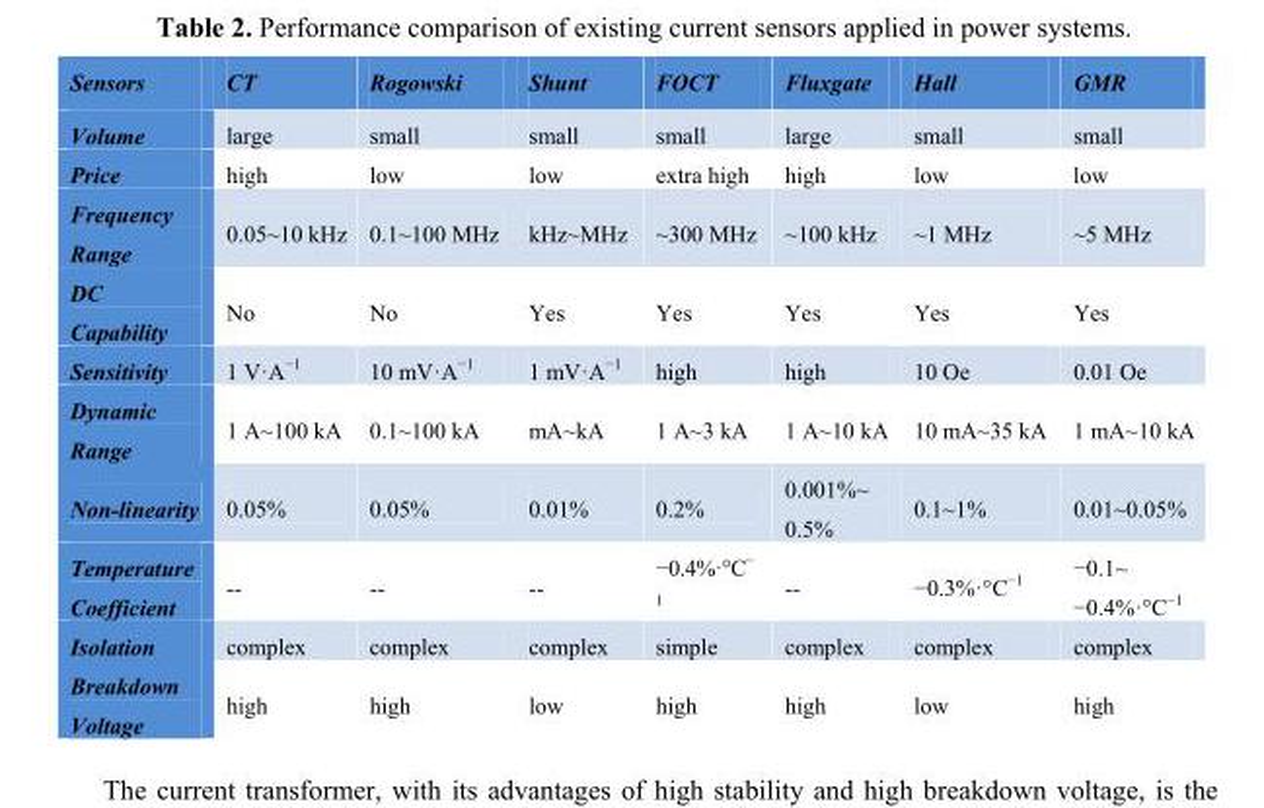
<table><thead><tr><td>Sensors</td><td>CT</td><td>Rogowski</td><td>Shunt</td><td>FOCT</td><td>Fluxgate</td><td>Hall</td><td>GMR</td></tr></thead><tbody><tr><td>Volume</td><td>large</td><td>small</td><td>small</td><td>small</td><td>large</td><td>small</td><td>small</td></tr><tr><td>Price</td><td>high</td><td>low</td><td>low</td><td>extra high</td><td>high</td><td>low</td><td>low</td></tr><tr><td>Frequency Range</td><td>0.05~10 kHz</td><td>0.1~100 MHz</td><td>kHz~MHz</td><td>~300 MHz</td><td>~100 kHz</td><td>~1 MHz</td><td>~5 MHz</td></tr><tr><td>DC Capability</td><td>No</td><td>No</td><td>Yes</td><td>Yes</td><td>Yes</td><td>Yes</td><td>Yes</td></tr><tr><td>Sensitivity</td><td>1 V·A<sup>−1</sup></td><td>10 mV·A<sup>−1</sup></td><td>1 mV·A<sup>−1</sup></td><td>high</td><td>high</td><td>10 Oe</td><td>0.01 Oe</td></tr><tr><td>Dynamic Range</td><td>1 A~100 kA</td><td>0.1~100 kA</td><td>mA~kA</td><td>1 A~3 kA</td><td>1 A~10 kA</td><td>10 mA~35 kA</td><td>1 mA~10 kA</td></tr><tr><td>Non-linearity</td><td>0.05%</td><td>0.05%</td><td>0.01%</td><td>0.2%</td><td>0.001%~ 0.5%</td><td>0.1~1%</td><td>0.01~0.05%</td></tr><tr><td>Temperature Coefficient</td><td>--</td><td>--</td><td>--</td><td>−0.4%·°C<sup>− 1</sup></td><td>--</td><td>−0.3%·°C<sup>−1</sup></td><td>−0.1~ −0.4%·°C−1</td></tr><tr><td>Isolation</td><td>complex</td><td>complex</td><td>complex</td><td>simple</td><td>complex</td><td>complex</td><td>complex</td></tr><tr><td>Breakdown Voltage</td><td>high</td><td>high</td><td>low</td><td>high</td><td>high</td><td>low</td><td>high</td></tr></tbody></table>